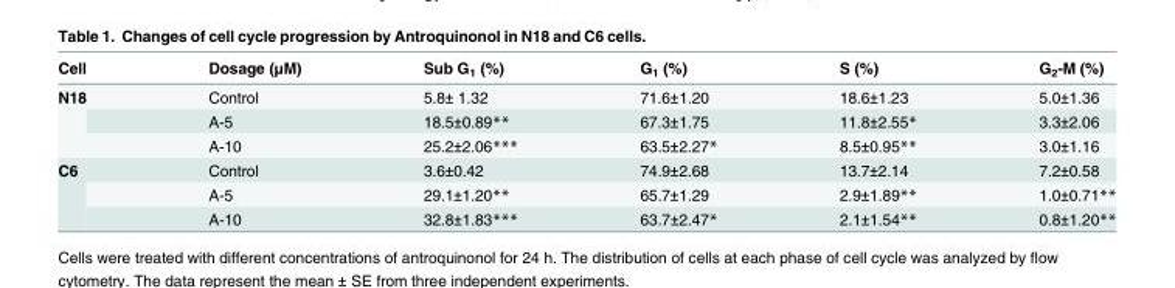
<table><thead><tr><td>Cell</td><td>Dosage (μM)</td><td>Sub G<sub>1</sub> (%)</td><td>G<sub>1</sub> (%)</td><td>S (%)</td><td>G<sub>2</sub>-M (%)</td></tr></thead><tbody><tr><td rowspan="3">N18</td><td>Control</td><td>5.8± 1.32</td><td>71.6±1.20</td><td>18.6±1.23</td><td>5.0±1.36</td></tr><tr><td>A-5</td><td>18.5±0.89**</td><td>67.3±1.75</td><td>11.8±2.55*</td><td>3.3±2.06</td></tr><tr><td>A-10</td><td>25.2±2.06***</td><td>63.5±2.27*</td><td>8.5±0.95**</td><td>3.0±1.16</td></tr><tr><td rowspan="3">C6</td><td>Control</td><td>3.6±0.42</td><td>74.9±2.68</td><td>13.7±2.14</td><td>7.2±0.58</td></tr><tr><td>A-5</td><td>29.1±1.20**</td><td>65.7±1.29</td><td>2.9±1.89**</td><td>1.0±0.71**</td></tr><tr><td>A-10</td><td>32.8±1.83***</td><td>63.7±2.47*</td><td>2.1±1.54**</td><td>0.8±1.20**</td></tr></tbody></table>